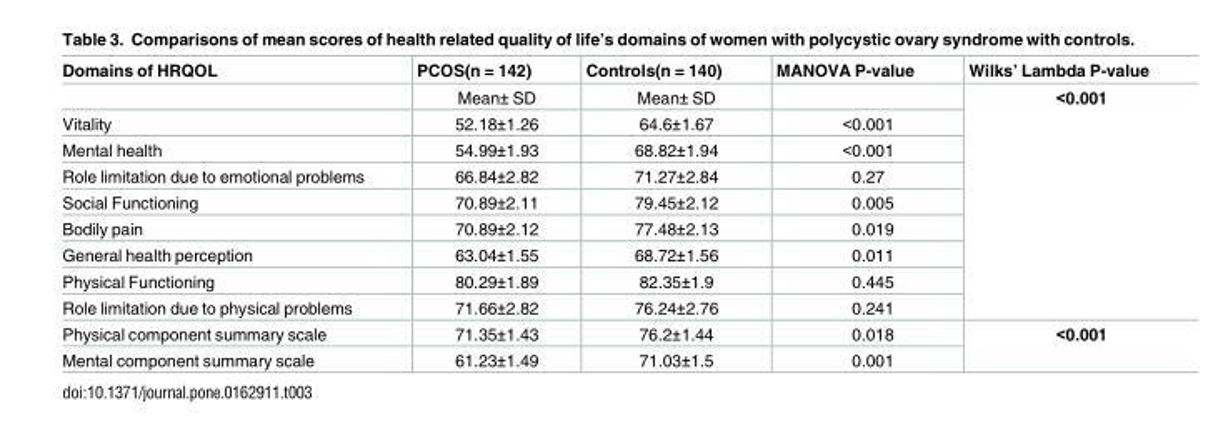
<table><thead><tr><td>Domains of HRQOL</td><td>PCOS(n = 142)</td><td>Controls(n = 140)</td><td>MANOVA P-value</td><td>Wilks’ Lambda P-value</td></tr></thead><tbody><tr><td></td><td>Mean± SD</td><td>Mean± SD</td><td></td><td rowspan="9">&lt;0.001</td></tr><tr><td>Vitality</td><td>52.18±1.26</td><td>64.6±1.67</td><td>&lt;0.001</td></tr><tr><td>Mental health</td><td>54.99±1.93</td><td>68.82±1.94</td><td>&lt;0.001</td></tr><tr><td>Role limitation due to emotional problems</td><td>66.84±2.82</td><td>71.27±2.84</td><td>0.27</td></tr><tr><td>Social Functioning</td><td>70.89±2.11</td><td>79.45±2.12</td><td>0.005</td></tr><tr><td>Bodily pain</td><td>70.89±2.12</td><td>77.48±2.13</td><td>0.019</td></tr><tr><td>General health perception</td><td>63.04±1.55</td><td>68.72±1.56</td><td>0.011</td></tr><tr><td>Physical Functioning</td><td>80.29±1.89</td><td>82.35±1.9</td><td>0.445</td></tr><tr><td>Role limitation due to physical problems</td><td>71.66±2.82</td><td>76.24±2.76</td><td>0.241</td></tr><tr><td>Physical component summary scale</td><td>71.35±1.43</td><td>76.2±1.44</td><td>0.018</td><td rowspan="2">&lt;0.001</td></tr><tr><td>Mental component summary scale</td><td>61.23±1.49</td><td>71.03±1.5</td><td>0.001</td></tr></tbody></table>